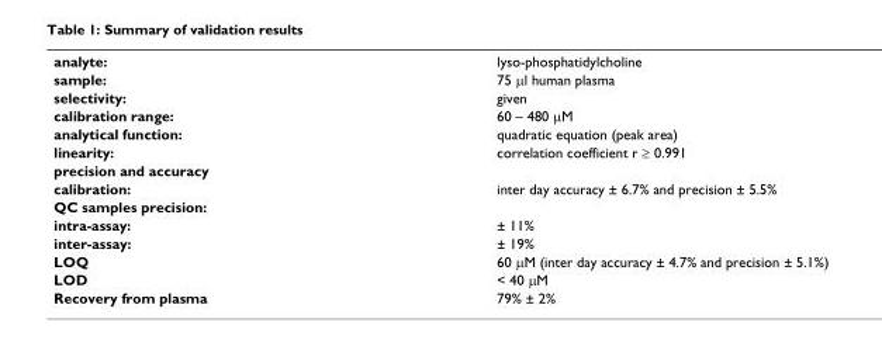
<table><tbody><tr><td>analyte:</td><td>lyso-phosphatidylcholine</td></tr><tr><td>sample:</td><td>75 μl human plasma</td></tr><tr><td>selectivity:</td><td>given</td></tr><tr><td>calibration range:</td><td>60 – 480 μM</td></tr><tr><td>analytical function:</td><td>quadratic equation (peak area)</td></tr><tr><td>linearity:</td><td>correlation coefficient r ≥ 0.991</td></tr><tr><td colspan="2">precision and accuracy</td></tr><tr><td>calibration:</td><td>inter day accuracy ± 6.7% and precision ± 5.5%</td></tr><tr><td colspan="2">QC samples precision:</td></tr><tr><td>intra-assay:</td><td>± 11%</td></tr><tr><td>inter-assay:</td><td>± 19%</td></tr><tr><td>LOQ</td><td>60 μM (inter day accuracy ± 4.7% and precision ± 5.1%)</td></tr><tr><td>LOD</td><td>&lt; 40 μM</td></tr><tr><td>Recovery from plasma</td><td>79% ± 2%</td></tr></tbody></table>